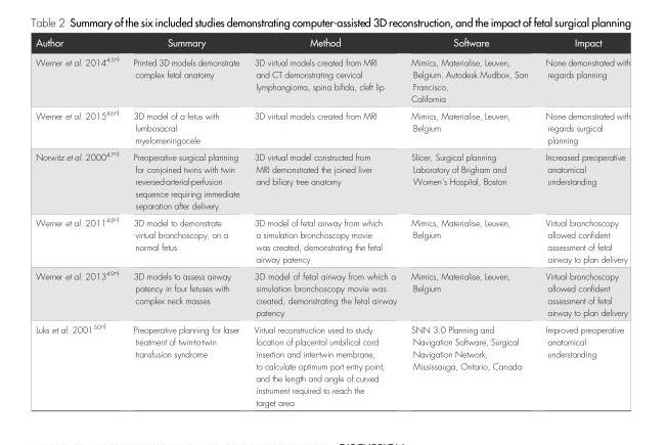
<table><thead><tr><td>Author</td><td>Summary</td><td>Method</td><td>Software</td><td>Impact</td></tr></thead><tbody><tr><td>Werner et al. 2014<sup>45n}</sup></td><td>Printed 3D models demonstrate complex fetal anatomy</td><td>3D virtual models created from MRI and CT demonstrating cervical lymphangioma, spina bifida, cleft lip</td><td>Mimics, Materialise, Leuven, Belgium. Autodesk Mudbox, San Francisco, California</td><td>None demonstrated with regards planning</td></tr><tr><td>Werner et al. 2015<sup>46n}</sup></td><td>3D model of a fetus with lumbosacral myelomeningocele</td><td>3D virtual models created from MRI</td><td>Mimics, Materialise, Leuven, Belgium</td><td>None demonstrated with regards surgical planning</td></tr><tr><td>Norwitz et al. 2000<sup>47n}</sup></td><td>Preoperative surgical planning for conjoined twins with twin reversed-arterial-perfusion sequence requiring immediate separation after delivery</td><td>3D virtual model constructed from MRI demonstrated the joined liver and biliary tree anatomy</td><td>Slicer, Surgical planning Laboratory of Brigham and Women’s Hospital, Boston</td><td>Increased preoperative anatomical understanding</td></tr><tr><td>Werner et al. 2011<sup>48n}</sup></td><td>3D model to demonstrate virtual bronchoscopy, on a normal fetus</td><td>3D model of fetal airway from which a simulation bronchoscopy movie was created, demonstrating the fetal airway patency</td><td>Mimics, Materialise, Leuven, Belgium</td><td>Virtual bronchoscopy allowed confident assessment of fetal airway to plan delivery</td></tr><tr><td>Werner et al. 2013<sup>49n}</sup></td><td>3D models to assess airway patency in four fetuses with complex neck masses</td><td>3D model of fetal airway from which a simulation bronchoscopy movie was created, demonstrating the fetal airway patency</td><td>Mimics, Materialise, Leuven, Belgium</td><td>Virtual bronchoscopy allowed confident assessment of fetal airway to plan delivery</td></tr><tr><td>Luks et al. 2001<sup>50n}</sup></td><td>Preoperative planning for laser treatment of twin-to-twin transfusion syndrome</td><td>Virtual reconstruction used to study location of placental umbilical cord insertion and inter-twin membrane, to calculate optimum port entry point, and the length and angle of curved instrument required to reach the target area</td><td>SNN 3.0 Planning and Navigation Software, Surgical Navigation Network, Mississauga, Ontario, Canada</td><td>Improved preoperative anatomical understanding</td></tr></tbody></table>